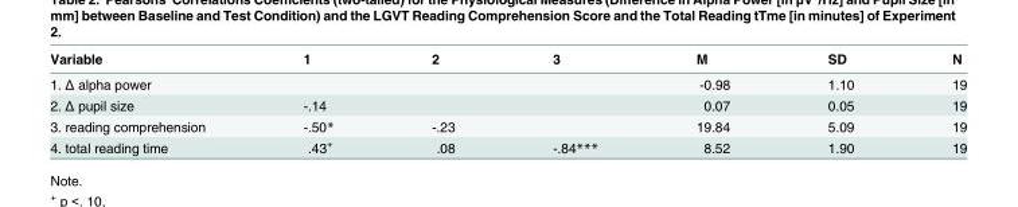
<table><thead><tr><td>Variable</td><td>1</td><td>2</td><td>3</td><td>M</td><td>SD</td><td>N</td></tr></thead><tbody><tr><td>1. Δ alpha power</td><td></td><td></td><td></td><td>-0.98</td><td>1.10</td><td>19</td></tr><tr><td>2. Δ pupil size</td><td>-.14</td><td></td><td></td><td>0.07</td><td>0.05</td><td>19</td></tr><tr><td>3. reading comprehension</td><td>-.50*</td><td>-.23</td><td></td><td>19.84</td><td>5.09</td><td>19</td></tr><tr><td>4. total reading time</td><td>.43<sup>+</sup></td><td>.08</td><td>-.84***</td><td>8.52</td><td>1.90</td><td>19</td></tr></tbody></table>